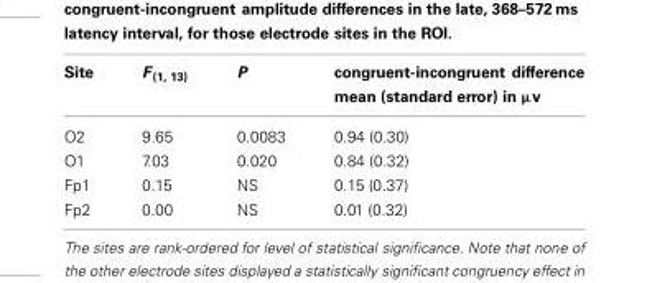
<table><thead><tr><td>Site</td><td>F <sub>(1, 13)</sub></td><td>P</td><td>congruent-incongruent difference mean (standard error) in µv</td></tr></thead><tbody><tr><td>O2</td><td>9.65</td><td>0.0083</td><td>0.94 (0.30)</td></tr><tr><td>O1</td><td>7.03</td><td>0.020</td><td>0.84 (0.32)</td></tr><tr><td>Fp1</td><td>0.15</td><td>NS</td><td>0.15 (0.37)</td></tr><tr><td>Fp2</td><td>0.00</td><td>NS</td><td>0.01 (0.32)</td></tr></tbody></table>